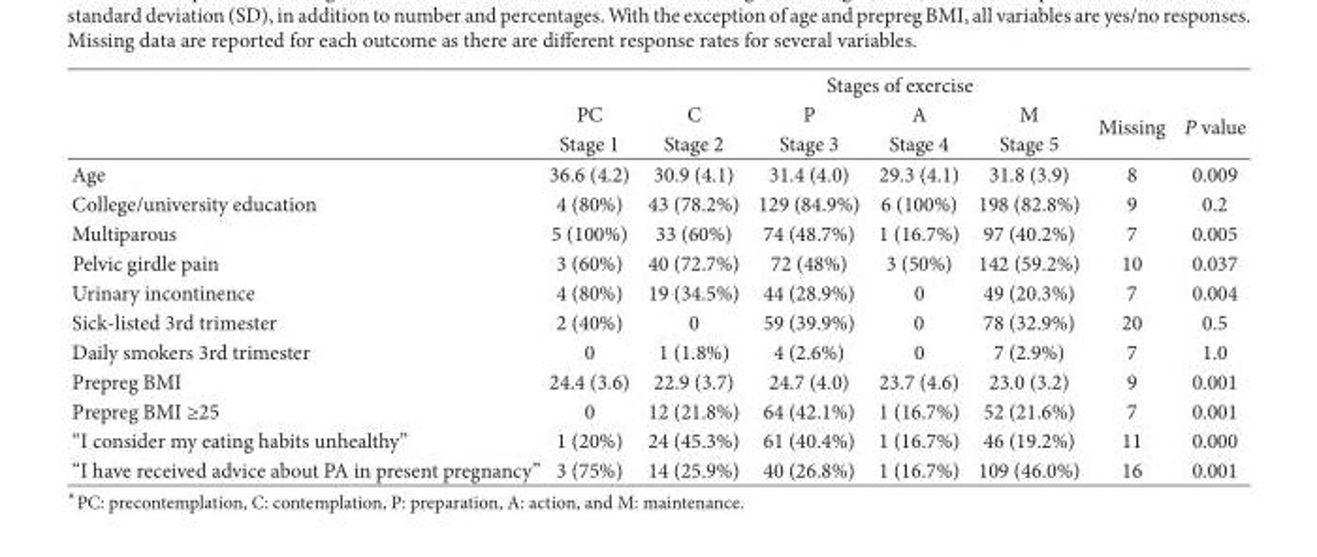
<table><thead><tr><td rowspan="3"></td><td colspan="7">Stages of exercise</td></tr><tr><td rowspan="2">PC Stage 1</td><td rowspan="2">C Stage 2</td><td rowspan="2">P Stage 3</td><td rowspan="2">A Stage 4</td><td rowspan="2">M Stage 5</td><td rowspan="2">Missing</td><td rowspan="2">P value</td></tr><tr></tr></thead><tbody><tr><td>Age</td><td>36.6 (4.2)</td><td>30.9 (4.1)</td><td>31.4 (4.0)</td><td>29.3 (4.1)</td><td>31.8 (3.9)</td><td>8</td><td>0.009</td></tr><tr><td>College/university education</td><td>4 (80%)</td><td>43 (78.2%)</td><td>129 (84.9%)</td><td>6 (100%)</td><td>198 (82.8%)</td><td>9</td><td>0.2</td></tr><tr><td>Multiparous</td><td>5 (100%)</td><td>33 (60%)</td><td>74 (48.7%)</td><td>1 (16.7%)</td><td>97 (40.2%)</td><td>7</td><td>0.005</td></tr><tr><td>Pelvic girdle pain</td><td>3 (60%)</td><td>40 (72.7%)</td><td>72 (48%)</td><td>3 (50%)</td><td>142 (59.2%)</td><td>10</td><td>0.037</td></tr><tr><td>Urinary incontinence</td><td>4 (80%)</td><td>19 (34.5%)</td><td>44 (28.9%)</td><td>0</td><td>49 (20.3%)</td><td>7</td><td>0.004</td></tr><tr><td>Sick-listed 3rd trimester</td><td>2 (40%)</td><td>0</td><td>59 (39.9%)</td><td>0</td><td>78 (32.9%)</td><td>20</td><td>0.5</td></tr><tr><td>Daily smokers 3rd trimester</td><td>0</td><td>1 (1.8%)</td><td>4 (2.6%)</td><td>0</td><td>7 (2.9%)</td><td>7</td><td>1.0</td></tr><tr><td>Prepreg BMI</td><td>24.4 (3.6)</td><td>22.9 (3.7)</td><td>24.7 (4.0)</td><td>23.7 (4.6)</td><td>23.0 (3.2)</td><td>9</td><td>0.001</td></tr><tr><td>Prepreg BMI ≥25</td><td>0</td><td>12 (21.8%)</td><td>64 (42.1%)</td><td>1 (16.7%)</td><td>52 (21.6%)</td><td>7</td><td>0.001</td></tr><tr><td>“I consider my eating habits unhealthy”</td><td>1 (20%)</td><td>24 (45.3%)</td><td>61 (40.4%)</td><td>1 (16.7%)</td><td>46 (19.2%)</td><td>11</td><td>0.000</td></tr><tr><td>“I have received advice about PA in present pregnancy”</td><td>3 (75%)</td><td>14 (25.9%)</td><td>40 (26.8%)</td><td>1 (16.7%)</td><td>109 (46.0%)</td><td>16</td><td>0.001</td></tr></tbody></table>